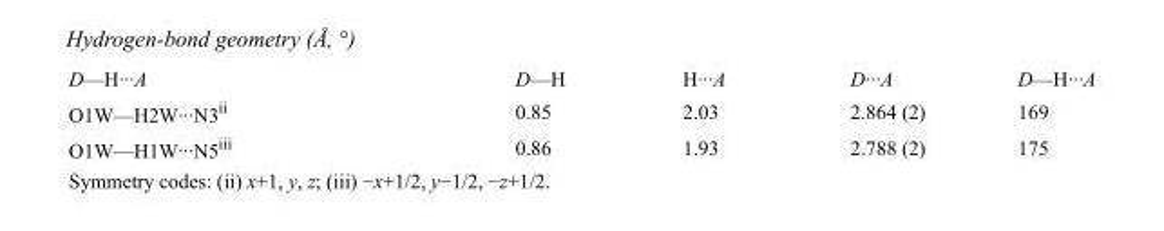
<table><tbody><tr><td>D—H···A</td><td>D—H</td><td>H···A</td><td>D···A</td><td>D—H···A</td></tr><tr><td>O1W—H2W···N3<sup>ii</sup></td><td>0.85</td><td>2.03</td><td>2.864 (2)</td><td>169</td></tr><tr><td>O1W—H1W···N5<sup>iii</sup></td><td>0.86</td><td>1.93</td><td>2.788 (2)</td><td>175</td></tr></tbody></table>